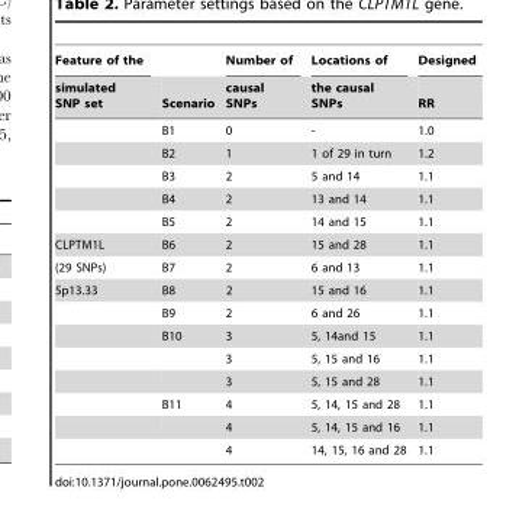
<table><thead><tr><td rowspan="2">Feature of the simulated SNP set</td><td rowspan="2">Scenario</td><td rowspan="2">Number of causal SNPs</td><td rowspan="2">Locations of the causal SNPs</td><td rowspan="2">Designed RR</td></tr><tr></tr></thead><tbody><tr><td></td><td>B1</td><td>0</td><td>-</td><td>1.0</td></tr><tr><td></td><td>B2</td><td>1</td><td>1 of 29 in turn</td><td>1.2</td></tr><tr><td></td><td>B3</td><td>2</td><td>5 and 14</td><td>1.1</td></tr><tr><td></td><td>B4</td><td>2</td><td>13 and 14</td><td>1.1</td></tr><tr><td></td><td>B5</td><td>2</td><td>14 and 15</td><td>1.1</td></tr><tr><td>CLPTM1L</td><td>B6</td><td>2</td><td>15 and 28</td><td>1.1</td></tr><tr><td>(29 SNPs)</td><td>B7</td><td>2</td><td>6 and 13</td><td>1.1</td></tr><tr><td rowspan="8">5p13.33</td><td>B8</td><td>2</td><td>15 and 16</td><td>1.1</td></tr><tr><td>B9</td><td>2</td><td>6 and 26</td><td>1.1</td></tr><tr><td>B10</td><td>3</td><td>5, 14and 15</td><td>1.1</td></tr><tr><td></td><td>3</td><td>5, 15 and 16</td><td>1.1</td></tr><tr><td></td><td>3</td><td>5, 15 and 28</td><td>1.1</td></tr><tr><td>B11</td><td>4</td><td>5, 14, 15 and 28</td><td>1.1</td></tr><tr><td></td><td>4</td><td>5, 14, 15 and 16</td><td>1.1</td></tr><tr><td></td><td>4</td><td>14, 15, 16 and 28</td><td>1.1</td></tr></tbody></table>